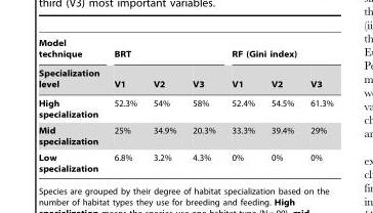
<table><thead><tr><td rowspan="2">Model technique Specialization level</td><td colspan="3">BRT</td><td colspan="3">RF (Gini index)</td></tr><tr><td>V1</td><td>V2</td><td>V3</td><td>V1</td><td>V2</td><td>V3</td></tr></thead><tbody><tr><td>High specialization</td><td>52.3%</td><td>54%</td><td>58%</td><td>52.4%</td><td>54.5%</td><td>61.3%</td></tr><tr><td>Mid specialization</td><td>25%</td><td>34.9%</td><td>20.3%</td><td>33.3%</td><td>39.4%</td><td>29%</td></tr><tr><td>Low specialization</td><td>6.8%</td><td>3.2%</td><td>4.3%</td><td>0%</td><td>0%</td><td>0%</td></tr></tbody></table>